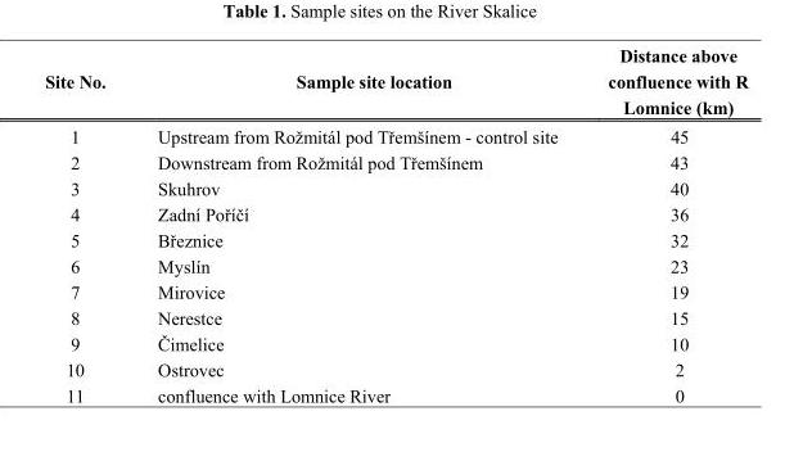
<table><thead><tr><td>Site No.</td><td>Sample site location</td><td>Distance above confluence with R Lomnice (km)</td></tr></thead><tbody><tr><td>1</td><td>Upstream from Rožmitál pod Třemšínem - control site</td><td>45</td></tr><tr><td>2</td><td>Downstream from Rožmitál pod Třemšínem</td><td>43</td></tr><tr><td>3</td><td>Skuhrov</td><td>40</td></tr><tr><td>4</td><td>Zadní Poříčí</td><td>36</td></tr><tr><td>5</td><td>Březnice</td><td>32</td></tr><tr><td>6</td><td>Myslín</td><td>23</td></tr><tr><td>7</td><td>Mirovice</td><td>19</td></tr><tr><td>8</td><td>Nerestce</td><td>15</td></tr><tr><td>9</td><td>Čimelice</td><td>10</td></tr><tr><td>10</td><td>Ostrovec</td><td>2</td></tr><tr><td>11</td><td>confluence with Lomnice River</td><td>0</td></tr></tbody></table>